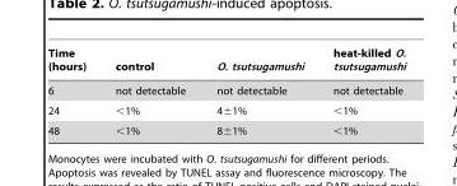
<table><thead><tr><td>Time (hours)</td><td>control</td><td>O. tsutsugamushi</td><td>heat-killed O. tsutsugamushi</td></tr></thead><tbody><tr><td>6</td><td>not detectable</td><td>not detectable</td><td>not detectable</td></tr><tr><td>24</td><td>&lt;1%</td><td>4±1%</td><td>&lt;1%</td></tr><tr><td>48</td><td>&lt;1%</td><td>8±1%</td><td>&lt;1%</td></tr></tbody></table>